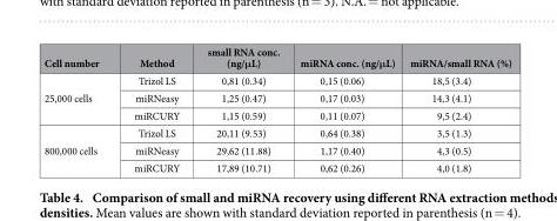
<table><thead><tr><td>Cell number</td><td>Method</td><td>small RNA conc. (ng/μL)</td><td>miRNA conc. (ng/μL)</td><td>miRNA/small RNA (%)</td></tr></thead><tbody><tr><td rowspan="3">25,000 cells</td><td>Trizol LS</td><td>0,81 (0.34)</td><td>0,15 (0.06)</td><td>18,5 (3.4)</td></tr><tr><td>miRNeasy</td><td>1,25 (0.47)</td><td>0,17 (0.03)</td><td>14,3 (4.1)</td></tr><tr><td>miRCURY</td><td>1,15 (0.59)</td><td>0,11 (0.07)</td><td>9,5 (2.4)</td></tr><tr><td rowspan="3">800,000 cells</td><td>Trizol LS</td><td>20,11 (9.53)</td><td>0,64 (0.38)</td><td>3,5 (1.3)</td></tr><tr><td>miRNeasy</td><td>29,62 (11.88)</td><td>1,17 (0.40)</td><td>4,3 (0.5)</td></tr><tr><td>miRCURY</td><td>17,89 (10.71)</td><td>0,62 (0.26)</td><td>4,0 (1.8)</td></tr></tbody></table>